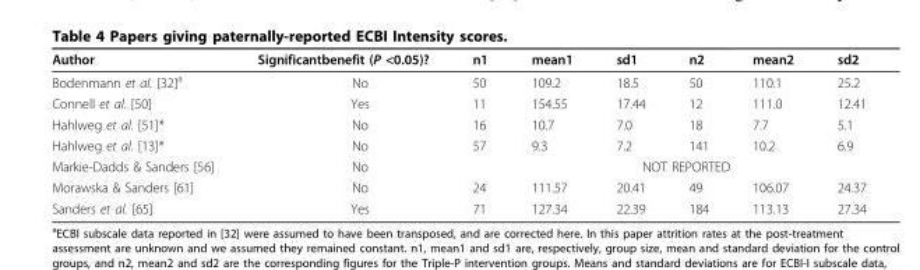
<table><thead><tr><td>Author</td><td>Significantbenefit (P &lt;0.05)?</td><td>n1</td><td>mean1</td><td>sd1</td><td>n2</td><td>mean2</td><td>sd2</td></tr></thead><tbody><tr><td>Bodenmann et al. [32]<sup>a</sup></td><td>No</td><td>50</td><td>109.2</td><td>18.5</td><td>50</td><td>110.1</td><td>25.2</td></tr><tr><td>Connell et al. [50]</td><td>Yes</td><td>11</td><td>154.55</td><td>17.44</td><td>12</td><td>111.0</td><td>12.41</td></tr><tr><td>Hahlweg et al. [51]*</td><td>No</td><td>16</td><td>10.7</td><td>7.0</td><td>18</td><td>7.7</td><td>5.1</td></tr><tr><td>Hahlweg et al. [13]*</td><td>No</td><td>57</td><td>9.3</td><td>7.2</td><td>141</td><td>10.2</td><td>6.9</td></tr><tr><td>Markie-Dadds &amp; Sanders [56]</td><td>No</td><td colspan="6">NOT REPORTED</td></tr><tr><td>Morawska &amp; Sanders [61]</td><td>No</td><td>24</td><td>111.57</td><td>20.41</td><td>49</td><td>106.07</td><td>24.37</td></tr><tr><td>Sanders et al. [65]</td><td>Yes</td><td>71</td><td>127.34</td><td>22.39</td><td>184</td><td>113.13</td><td>27.34</td></tr></tbody></table>